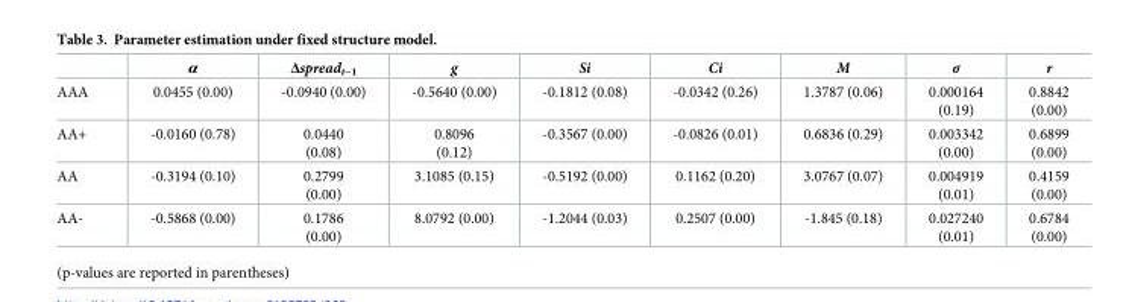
<table><thead><tr><td></td><td>α</td><td>Δspread<sub>t−1</sub></td><td>g</td><td>Si</td><td>Ci</td><td>M</td><td>σ</td><td>r</td></tr></thead><tbody><tr><td>AAA</td><td>0.0455 (0.00)</td><td>-0.0940 (0.00)</td><td>-0.5640 (0.00)</td><td>-0.1812 (0.08)</td><td>-0.0342 (0.26)</td><td>1.3787 (0.06)</td><td>0.000164 (0.19)</td><td>0.8842 (0.00)</td></tr><tr><td>AA+</td><td>-0.0160 (0.78)</td><td>0.0440 (0.08)</td><td>0.8096 (0.12)</td><td>-0.3567 (0.00)</td><td>-0.0826 (0.01)</td><td>0.6836 (0.29)</td><td>0.003342 (0.00)</td><td>0.6899 (0.00)</td></tr><tr><td>AA</td><td>-0.3194 (0.10)</td><td>0.2799 (0.00)</td><td>3.1085 (0.15)</td><td>-0.5192 (0.00)</td><td>0.1162 (0.20)</td><td>3.0767 (0.07)</td><td>0.004919 (0.01)</td><td>0.4159 (0.00)</td></tr><tr><td>AA-</td><td>-0.5868 (0.00)</td><td>0.1786 (0.00)</td><td>8.0792 (0.00)</td><td>-1.2044 (0.03)</td><td>0.2507 (0.00)</td><td>-1.845 (0.18)</td><td>0.027240 (0.01)</td><td>0.6784 (0.00)</td></tr></tbody></table>